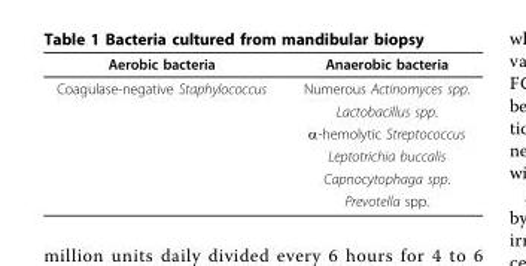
<table><thead><tr><td>Aerobic bacteria</td><td>Anaerobic bacteria</td></tr></thead><tbody><tr><td rowspan="6">Coagulase-negative Staphylococcus</td><td>Numerous Actinomyces spp.</td></tr><tr><td>Lactobacillus spp.</td></tr><tr><td>α-hemolytic Streptococcus</td></tr><tr><td>Leptotrichia buccalis</td></tr><tr><td>Capnocytophaga spp.</td></tr><tr><td>Prevotella spp.</td></tr></tbody></table>